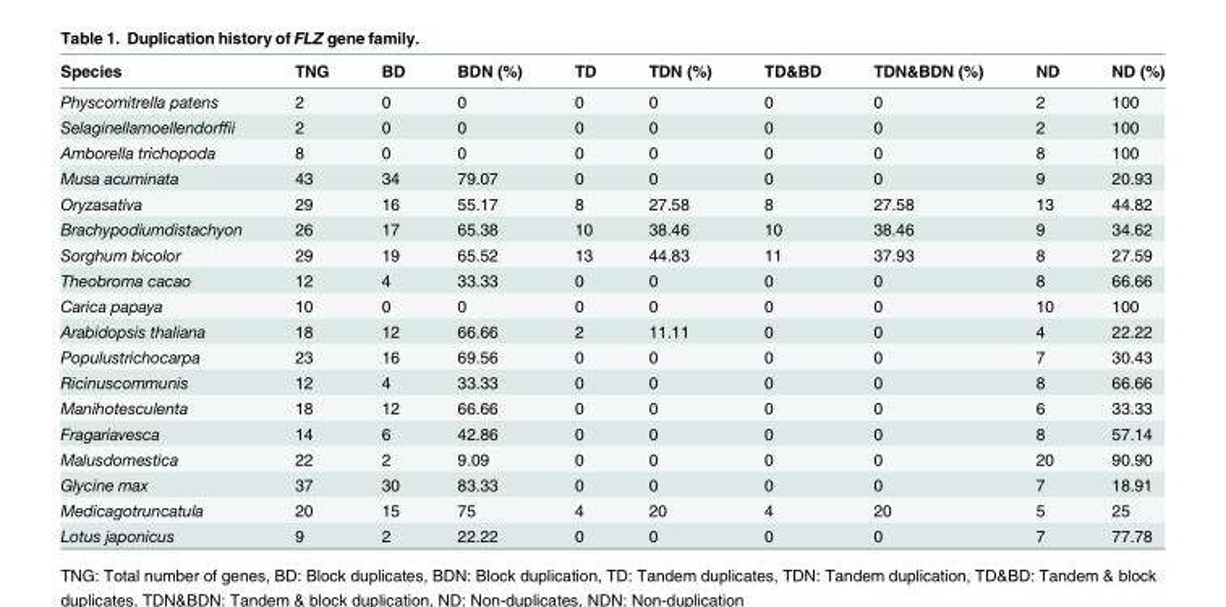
<table><thead><tr><td>Species</td><td>TNG</td><td>BD</td><td>BDN (%)</td><td>TD</td><td>TDN (%)</td><td>TD&amp;BD</td><td>TDN&amp;BDN (%)</td><td>ND</td><td>ND (%)</td></tr></thead><tbody><tr><td>Physcomitrella patens</td><td>2</td><td>0</td><td>0</td><td>0</td><td>0</td><td>0</td><td>0</td><td>2</td><td>100</td></tr><tr><td>Selaginellamoellendorffii</td><td>2</td><td>0</td><td>0</td><td>0</td><td>0</td><td>0</td><td>0</td><td>2</td><td>100</td></tr><tr><td>Amborella trichopoda</td><td>8</td><td>0</td><td>0</td><td>0</td><td>0</td><td>0</td><td>0</td><td>8</td><td>100</td></tr><tr><td>Musa acuminata</td><td>43</td><td>34</td><td>79.07</td><td>0</td><td>0</td><td>0</td><td>0</td><td>9</td><td>20.93</td></tr><tr><td>Oryzasativa</td><td>29</td><td>16</td><td>55.17</td><td>8</td><td>27.58</td><td>8</td><td>27.58</td><td>13</td><td>44.82</td></tr><tr><td>Brachypodiumdistachyon</td><td>26</td><td>17</td><td>65.38</td><td>10</td><td>38.46</td><td>10</td><td>38.46</td><td>9</td><td>34.62</td></tr><tr><td>Sorghum bicolor</td><td>29</td><td>19</td><td>65.52</td><td>13</td><td>44.83</td><td>11</td><td>37.93</td><td>8</td><td>27.59</td></tr><tr><td>Theobroma cacao</td><td>12</td><td>4</td><td>33.33</td><td>0</td><td>0</td><td>0</td><td>0</td><td>8</td><td>66.66</td></tr><tr><td>Carica papaya</td><td>10</td><td>0</td><td>0</td><td>0</td><td>0</td><td>0</td><td>0</td><td>10</td><td>100</td></tr><tr><td>Arabidopsis thaliana</td><td>18</td><td>12</td><td>66.66</td><td>2</td><td>11.11</td><td>0</td><td>0</td><td>4</td><td>22.22</td></tr><tr><td>Populustrichocarpa</td><td>23</td><td>16</td><td>69.56</td><td>0</td><td>0</td><td>0</td><td>0</td><td>7</td><td>30.43</td></tr><tr><td>Ricinuscommunis</td><td>12</td><td>4</td><td>33.33</td><td>0</td><td>0</td><td>0</td><td>0</td><td>8</td><td>66.66</td></tr><tr><td>Manihotesculenta</td><td>18</td><td>12</td><td>66.66</td><td>0</td><td>0</td><td>0</td><td>0</td><td>6</td><td>33.33</td></tr><tr><td>Fragariavesca</td><td>14</td><td>6</td><td>42.86</td><td>0</td><td>0</td><td>0</td><td>0</td><td>8</td><td>57.14</td></tr><tr><td>Malusdomestica</td><td>22</td><td>2</td><td>9.09</td><td>0</td><td>0</td><td>0</td><td>0</td><td>20</td><td>90.90</td></tr><tr><td>Glycine max</td><td>37</td><td>30</td><td>83.33</td><td>0</td><td>0</td><td>0</td><td>0</td><td>7</td><td>18.91</td></tr><tr><td>Medicagotruncatula</td><td>20</td><td>15</td><td>75</td><td>4</td><td>20</td><td>4</td><td>20</td><td>5</td><td>25</td></tr><tr><td>Lotus japonicus</td><td>9</td><td>2</td><td>22.22</td><td>0</td><td>0</td><td>0</td><td>0</td><td>7</td><td>77.78</td></tr></tbody></table>